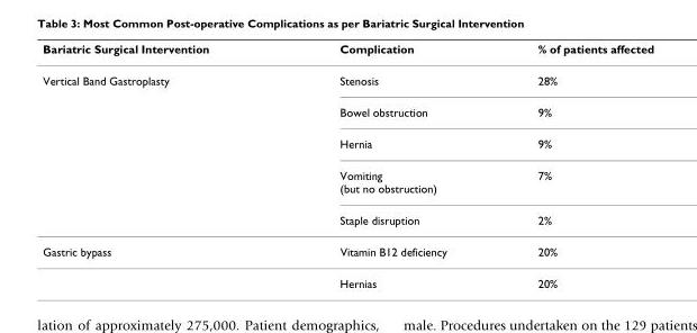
<table><thead><tr><td>Bariatric Surgical Intervention</td><td>Complication</td><td>% of patients affected</td></tr></thead><tbody><tr><td rowspan="5">Vertical Band Gastroplasty</td><td>Stenosis</td><td>28%</td></tr><tr><td>Bowel obstruction</td><td>9%</td></tr><tr><td>Hernia</td><td>9%</td></tr><tr><td>Vomiting (but no obstruction)</td><td>7%</td></tr><tr><td>Staple disruption</td><td>2%</td></tr><tr><td rowspan="2">Gastric bypass</td><td>Vitamin B12 deficiency</td><td>20%</td></tr><tr><td>Hernias</td><td>20%</td></tr></tbody></table>